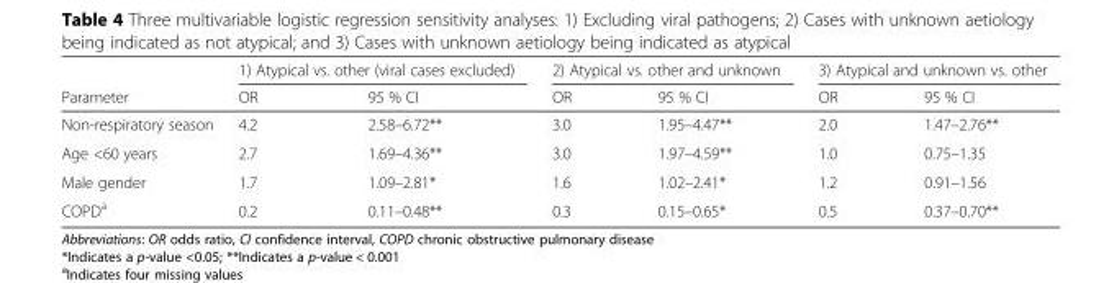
<table><thead><tr><td rowspan="2">Parameter</td><td colspan="2">1) Atypical vs. other (viral cases excluded)</td><td colspan="2">2) Atypical vs. other and unknown</td><td colspan="2">3) Atypical and unknown vs. other</td></tr><tr><td>OR</td><td>95 % CI</td><td>OR</td><td>95 % CI</td><td>OR</td><td>95 % CI</td></tr></thead><tbody><tr><td>Non-respiratory season</td><td>4.2</td><td>2.58–6.72**</td><td>3.0</td><td>1.95–4.47**</td><td>2.0</td><td>1.47–2.76**</td></tr><tr><td>Age &lt;60 years</td><td>2.7</td><td>1.69–4.36**</td><td>3.0</td><td>1.97–4.59**</td><td>1.0</td><td>0.75–1.35</td></tr><tr><td>Male gender</td><td>1.7</td><td>1.09–2.81*</td><td>1.6</td><td>1.02–2.41*</td><td>1.2</td><td>0.91–1.56</td></tr><tr><td>COPD<sup>a</sup></td><td>0.2</td><td>0.11–0.48**</td><td>0.3</td><td>0.15–0.65*</td><td>0.5</td><td>0.37–0.70**</td></tr></tbody></table>